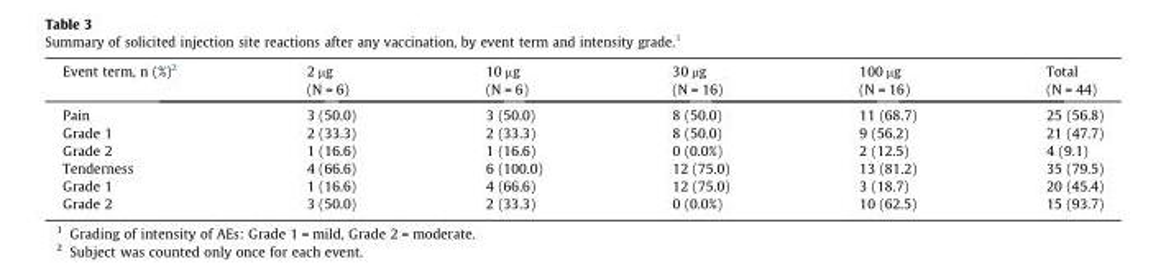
<table><thead><tr><td>Event term, n (%)<sup>2</sup></td><td>2 µg (N = 6)</td><td>10 µg (N = 6)</td><td>30 µg (N = 16)</td><td>100 µg (N = 16)</td><td>Total (N = 44)</td></tr></thead><tbody><tr><td>Pain</td><td>3 (50.0)</td><td>3 (50.0)</td><td>8 (50.0)</td><td>11 (68.7)</td><td>25 (56.8)</td></tr><tr><td>Grade 1</td><td>2 (33.3)</td><td>2 (33.3)</td><td>8 (50.0)</td><td>9 (56.2)</td><td>21 (47.7)</td></tr><tr><td>Grade 2</td><td>1 (16.6)</td><td>1 (16.6)</td><td>0 (0.0%)</td><td>2 (12.5)</td><td>4 (9.1)</td></tr><tr><td>Tenderness</td><td>4 (66.6)</td><td>6 (100.0)</td><td>12 (75.0)</td><td>13 (81.2)</td><td>35 (79.5)</td></tr><tr><td>Grade 1</td><td>1 (16.6)</td><td>4 (66.6)</td><td>12 (75.0)</td><td>3 (18.7)</td><td>20 (45.4)</td></tr><tr><td>Grade 2</td><td>3 (50.0)</td><td>2 (33.3)</td><td>0 (0.0%)</td><td>10 (62.5)</td><td>15 (93.7)</td></tr></tbody></table>